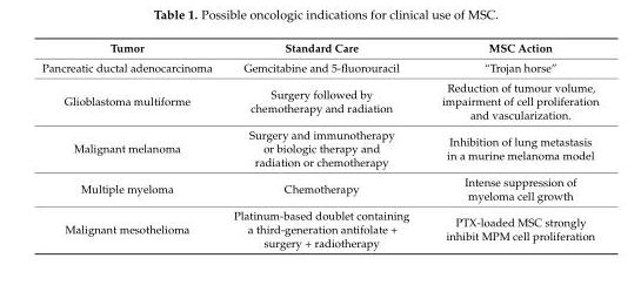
<table><thead><tr><td>Tumor</td><td>Standard Care</td><td>MSC Action</td></tr></thead><tbody><tr><td>Pancreatic ductal adenocarcinoma</td><td>Gemcitabine and 5-fluorouracil</td><td>“Trojan horse”</td></tr><tr><td>Glioblastoma multiforme</td><td>Surgery followed by chemotherapy and radiation</td><td>Reduction of tumour volume, impairment of cell proliferation and vascularization.</td></tr><tr><td>Malignant melanoma</td><td>Surgery and immunotherapy or biologic therapy and radiation or chemotherapy</td><td>Inhibition of lung metastasis in a murine melanoma model</td></tr><tr><td>Multiple myeloma</td><td>Chemotherapy</td><td>Intense suppression of myeloma cell growth</td></tr><tr><td>Malignant mesothelioma</td><td>Platinum-based doublet containing a third-generation antifolate + surgery + radiotherapy</td><td>PTX-loaded MSC strongly inhibit MPM cell proliferation</td></tr></tbody></table>